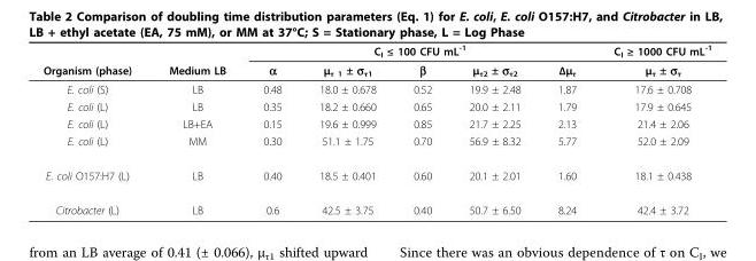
<table><thead><tr><td rowspan="2">Organism (phase)</td><td rowspan="2">Medium LB</td><td colspan="5">C<sub>I</sub> ≤ 100 CFU mL<sup>-1</sup></td><td rowspan="2">C<sub>I</sub> ≥ 1000 CFU mL<sup>-1</sup> μ<sub>τ</sub> ± σ<sub>τ</sub></td></tr><tr><td>α</td><td>μ<sub>τ 1</sub> ± σ<sub>τ1</sub></td><td>β</td><td>μ<sub>τ2</sub> ± σ<sub>τ2</sub></td><td>Δμ<sub>τ</sub></td></tr></thead><tbody><tr><td>E. coli (S)</td><td>LB</td><td>0.48</td><td>18.0 ± 0.678</td><td>0.52</td><td>19.9 ± 2.48</td><td>1.87</td><td>17.6 ± 0.708</td></tr><tr><td>E. coli (L)</td><td>LB</td><td>0.35</td><td>18.2 ± 0.660</td><td>0.65</td><td>20.0 ± 2.11</td><td>1.79</td><td>17.9 ± 0.645</td></tr><tr><td>E. coli (L)</td><td>LB+EA</td><td>0.15</td><td>19.6 ± 0.999</td><td>0.85</td><td>21.7 ± 2.25</td><td>2.13</td><td>21.4 ± 2.06</td></tr><tr><td>E. coli (L)</td><td>MM</td><td>0.30</td><td>51.1 ± 1.75</td><td>0.70</td><td>56.9 ± 8.32</td><td>5.77</td><td>52.0 ± 2.09</td></tr><tr><td>E. coli O157:H7 (L)</td><td>LB</td><td>0.40</td><td>18.5 ± 0.401</td><td>0.60</td><td>20.1 ± 2.01</td><td>1.60</td><td>18.1 ± 0.438</td></tr><tr><td>Citrobacter (L)</td><td>LB</td><td>0.6</td><td>42.5 ± 3.75</td><td>0.40</td><td>50.7 ± 6.50</td><td>8.24</td><td>42.4 ± 3.72</td></tr></tbody></table>